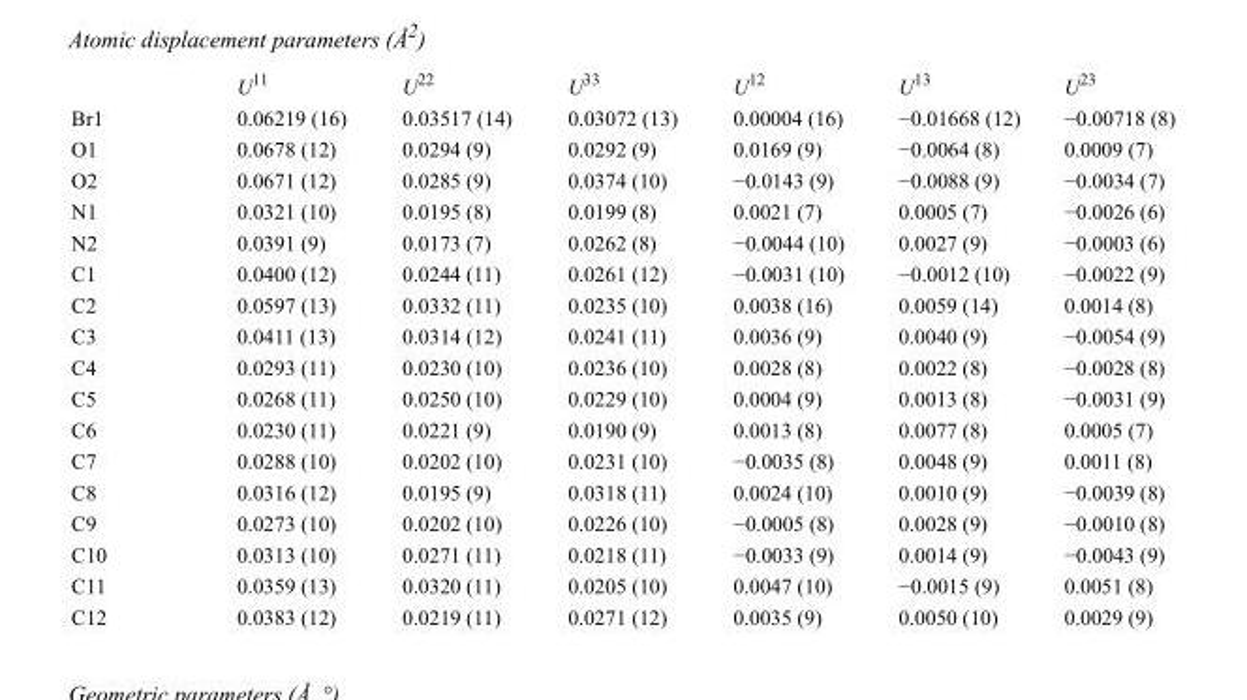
<table><thead><tr><td></td><td>U<sup>11</sup></td><td>U<sup>22</sup></td><td>U<sup>33</sup></td><td>U<sup>12</sup></td><td>U<sup>13</sup></td><td>U<sup>23</sup></td></tr></thead><tbody><tr><td>Br1</td><td>0.06219 (16)</td><td>0.03517 (14)</td><td>0.03072 (13)</td><td>0.00004 (16)</td><td>−0.01668 (12)</td><td>−0.00718 (8)</td></tr><tr><td>O1</td><td>0.0678 (12)</td><td>0.0294 (9)</td><td>0.0292 (9)</td><td>0.0169 (9)</td><td>−0.0064 (8)</td><td>0.0009 (7)</td></tr><tr><td>O2</td><td>0.0671 (12)</td><td>0.0285 (9)</td><td>0.0374 (10)</td><td>−0.0143 (9)</td><td>−0.0088 (9)</td><td>−0.0034 (7)</td></tr><tr><td>N1</td><td>0.0321 (10)</td><td>0.0195 (8)</td><td>0.0199 (8)</td><td>0.0021 (7)</td><td>0.0005 (7)</td><td>−0.0026 (6)</td></tr><tr><td>N2</td><td>0.0391 (9)</td><td>0.0173 (7)</td><td>0.0262 (8)</td><td>−0.0044 (10)</td><td>0.0027 (9)</td><td>−0.0003 (6)</td></tr><tr><td>C1</td><td>0.0400 (12)</td><td>0.0244 (11)</td><td>0.0261 (12)</td><td>−0.0031 (10)</td><td>−0.0012 (10)</td><td>−0.0022 (9)</td></tr><tr><td>C2</td><td>0.0597 (13)</td><td>0.0332 (11)</td><td>0.0235 (10)</td><td>0.0038 (16)</td><td>0.0059 (14)</td><td>0.0014 (8)</td></tr><tr><td>C3</td><td>0.0411 (13)</td><td>0.0314 (12)</td><td>0.0241 (11)</td><td>0.0036 (9)</td><td>0.0040 (9)</td><td>−0.0054 (9)</td></tr><tr><td>C4</td><td>0.0293 (11)</td><td>0.0230 (10)</td><td>0.0236 (10)</td><td>0.0028 (8)</td><td>0.0022 (8)</td><td>−0.0028 (8)</td></tr><tr><td>C5</td><td>0.0268 (11)</td><td>0.0250 (10)</td><td>0.0229 (10)</td><td>0.0004 (9)</td><td>0.0013 (8)</td><td>−0.0031 (9)</td></tr><tr><td>C6</td><td>0.0230 (11)</td><td>0.0221 (9)</td><td>0.0190 (9)</td><td>0.0013 (8)</td><td>0.0077 (8)</td><td>0.0005 (7)</td></tr><tr><td>C7</td><td>0.0288 (10)</td><td>0.0202 (10)</td><td>0.0231 (10)</td><td>−0.0035 (8)</td><td>0.0048 (9)</td><td>0.0011 (8)</td></tr><tr><td>C8</td><td>0.0316 (12)</td><td>0.0195 (9)</td><td>0.0318 (11)</td><td>0.0024 (10)</td><td>0.0010 (9)</td><td>−0.0039 (8)</td></tr><tr><td>C9</td><td>0.0273 (10)</td><td>0.0202 (10)</td><td>0.0226 (10)</td><td>−0.0005 (8)</td><td>0.0028 (9)</td><td>−0.0010 (8)</td></tr><tr><td>C10</td><td>0.0313 (10)</td><td>0.0271 (11)</td><td>0.0218 (11)</td><td>−0.0033 (9)</td><td>0.0014 (9)</td><td>−0.0043 (9)</td></tr><tr><td>C11</td><td>0.0359 (13)</td><td>0.0320 (11)</td><td>0.0205 (10)</td><td>0.0047 (10)</td><td>−0.0015 (9)</td><td>0.0051 (8)</td></tr><tr><td>C12</td><td>0.0383 (12)</td><td>0.0219 (11)</td><td>0.0271 (12)</td><td>0.0035 (9)</td><td>0.0050 (10)</td><td>0.0029 (9)</td></tr></tbody></table>